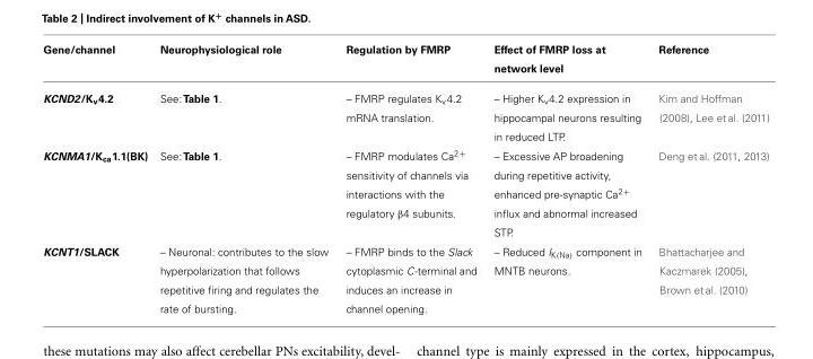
<table><thead><tr><td>Gene/channel</td><td>Neurophysiological role</td><td>Regulation by FMRP</td><td>Effect of FMRP loss at network level</td><td>Reference</td></tr></thead><tbody><tr><td>KCND2/Kv4.2</td><td>See:Table 1.</td><td>– FMRP regulates K<sub>v</sub>4.2 mRNA translation.</td><td>– Higher K<sub>v</sub>4.2 expression in hippocampal neurons resulting in reduced LTP.</td><td>Kim and Hoffman (2008), Lee et al. (2011)</td></tr><tr><td>KCNMA1/Kca1.1(BK)</td><td>See:Table 1.</td><td>– FMRP modulates Ca<sup>2+</sup> sensitivity of channels via interactions with the regulatory β4 subunits.</td><td>– Excessive AP broadening during repetitive activity, enhanced pre-synaptic Ca<sup>2+</sup> influx and abnormal increased STP.</td><td>Deng et al. (2011, 2013)</td></tr><tr><td>KCNT1/SLACK</td><td>– Neuronal: contributes to the slow hyperpolarization that follows repetitive firing and regulates the rate of bursting.</td><td>– FMRP binds to the Slack cytoplasmic C-terminal and induces an increase in channel opening.</td><td>– Reduced I<sub>K(Na)</sub> component in MNTB neurons.</td><td>Bhattacharjee and Kaczmarek (2005), Brown et al. (2010)</td></tr></tbody></table>